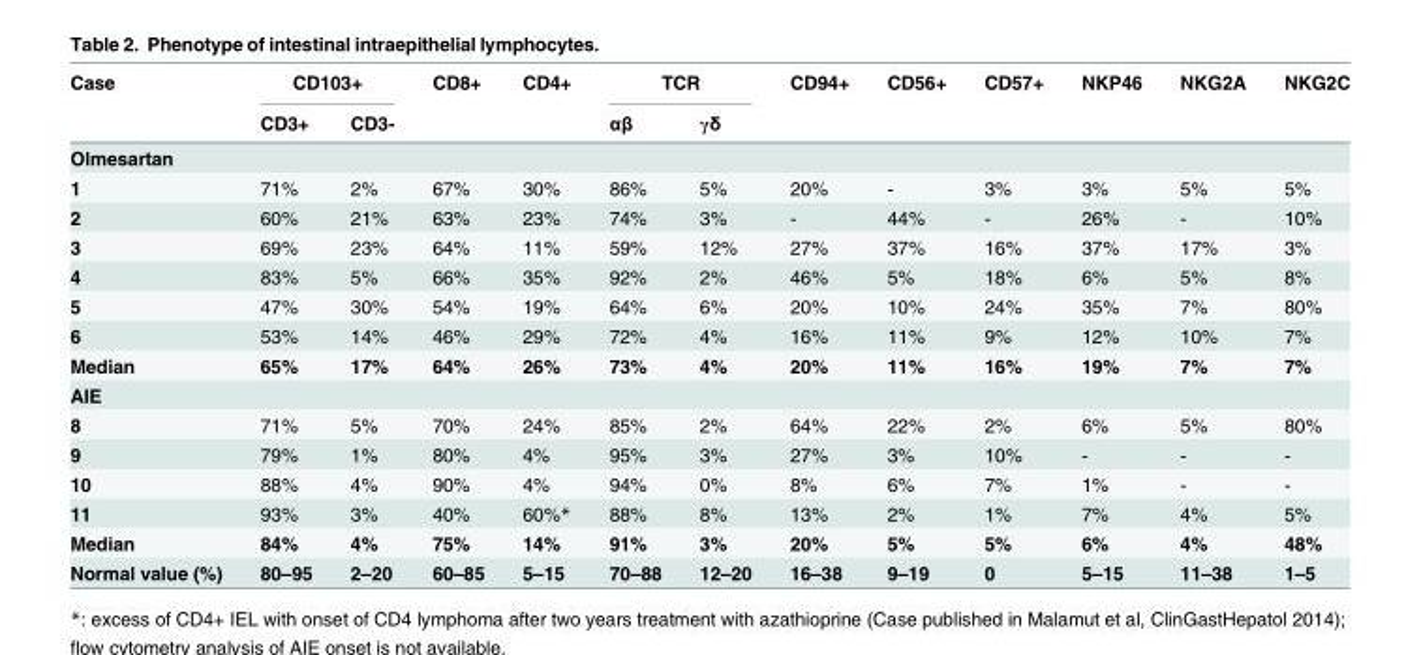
<table><thead><tr><td rowspan="2">Case</td><td colspan="2">CD103+</td><td rowspan="2">CD8+</td><td rowspan="2">CD4+</td><td colspan="2">TCR</td><td rowspan="2">CD94+</td><td rowspan="2">CD56+</td><td rowspan="2">CD57+</td><td rowspan="2">NKP46</td><td rowspan="2">NKG2A</td><td rowspan="2">NKG2C</td></tr><tr><td>CD3+</td><td>CD3-</td><td>αβ</td><td>γδ</td></tr></thead><tbody><tr><td colspan="13">Olmesartan</td></tr><tr><td>1</td><td>71%</td><td>2%</td><td>67%</td><td>30%</td><td>86%</td><td>5%</td><td>20%</td><td>-</td><td>3%</td><td>3%</td><td>5%</td><td>5%</td></tr><tr><td>2</td><td>60%</td><td>21%</td><td>63%</td><td>23%</td><td>74%</td><td>3%</td><td>-</td><td>44%</td><td>-</td><td>26%</td><td>-</td><td>10%</td></tr><tr><td>3</td><td>69%</td><td>23%</td><td>64%</td><td>11%</td><td>59%</td><td>12%</td><td>27%</td><td>37%</td><td>16%</td><td>37%</td><td>17%</td><td>3%</td></tr><tr><td>4</td><td>83%</td><td>5%</td><td>66%</td><td>35%</td><td>92%</td><td>2%</td><td>46%</td><td>5%</td><td>18%</td><td>6%</td><td>5%</td><td>8%</td></tr><tr><td>5</td><td>47%</td><td>30%</td><td>54%</td><td>19%</td><td>64%</td><td>6%</td><td>20%</td><td>10%</td><td>24%</td><td>35%</td><td>7%</td><td>80%</td></tr><tr><td>6</td><td>53%</td><td>14%</td><td>46%</td><td>29%</td><td>72%</td><td>4%</td><td>16%</td><td>11%</td><td>9%</td><td>12%</td><td>10%</td><td>7%</td></tr><tr><td>Median</td><td>65%</td><td>17%</td><td>64%</td><td>26%</td><td>73%</td><td>4%</td><td>20%</td><td>11%</td><td>16%</td><td>19%</td><td>7%</td><td>7%</td></tr><tr><td colspan="13">AIE</td></tr><tr><td>8</td><td>71%</td><td>5%</td><td>70%</td><td>24%</td><td>85%</td><td>2%</td><td>64%</td><td>22%</td><td>2%</td><td>6%</td><td>5%</td><td>80%</td></tr><tr><td>9</td><td>79%</td><td>1%</td><td>80%</td><td>4%</td><td>95%</td><td>3%</td><td>27%</td><td>3%</td><td>10%</td><td>-</td><td>-</td><td>-</td></tr><tr><td>10</td><td>88%</td><td>4%</td><td>90%</td><td>4%</td><td>94%</td><td>0%</td><td>8%</td><td>6%</td><td>7%</td><td>1%</td><td>-</td><td>-</td></tr><tr><td>11</td><td>93%</td><td>3%</td><td>40%</td><td>60%*</td><td>88%</td><td>8%</td><td>13%</td><td>2%</td><td>1%</td><td>7%</td><td>4%</td><td>5%</td></tr><tr><td>Median</td><td>84%</td><td>4%</td><td>75%</td><td>14%</td><td>91%</td><td>3%</td><td>20%</td><td>5%</td><td>5%</td><td>6%</td><td>4%</td><td>48%</td></tr><tr><td>Normal value (%)</td><td>80–95</td><td>2–20</td><td>60–85</td><td>5–15</td><td>70–88</td><td>12–20</td><td>16–38</td><td>9–19</td><td>0</td><td>5–15</td><td>11–38</td><td>1–5</td></tr></tbody></table>